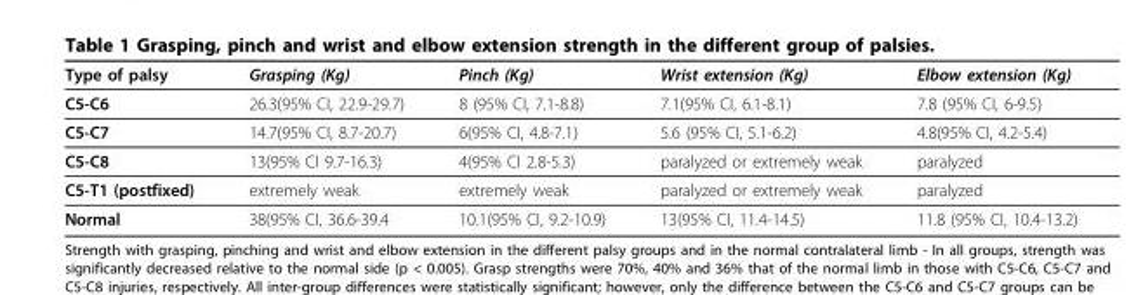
<table><thead><tr><td>Type of palsy</td><td>Grasping (Kg)</td><td>Pinch (Kg)</td><td>Wrist extension (Kg)</td><td>Elbow extension (Kg)</td></tr></thead><tbody><tr><td>C5-C6</td><td>26.3(95% CI, 22.9-29.7)</td><td>8 (95% CI, 7.1-8.8)</td><td>7.1(95% CI, 6.1-8.1)</td><td>7.8 (95% CI, 6-9.5)</td></tr><tr><td>C5-C7</td><td>14.7(95% CI, 8.7-20.7)</td><td>6(95% CI, 4.8-7.1)</td><td>5.6 (95% CI, 5.1-6.2)</td><td>4.8(95% CI, 4.2-5.4)</td></tr><tr><td>C5-C8</td><td>13(95% CI 9.7-16.3)</td><td>4(95% CI 2.8-5.3)</td><td>paralyzed or extremely weak</td><td>paralyzed</td></tr><tr><td>C5-T1 (postfixed)</td><td>extremely weak</td><td>extremely weak</td><td>paralyzed or extremely weak</td><td>paralyzed</td></tr><tr><td>Normal</td><td>38(95% CI, 36.6-39.4</td><td>10.1(95% CI, 9.2-10.9)</td><td>13(95% CI, 11.4-14.5)</td><td>11.8 (95% CI, 10.4-13.2)</td></tr></tbody></table>